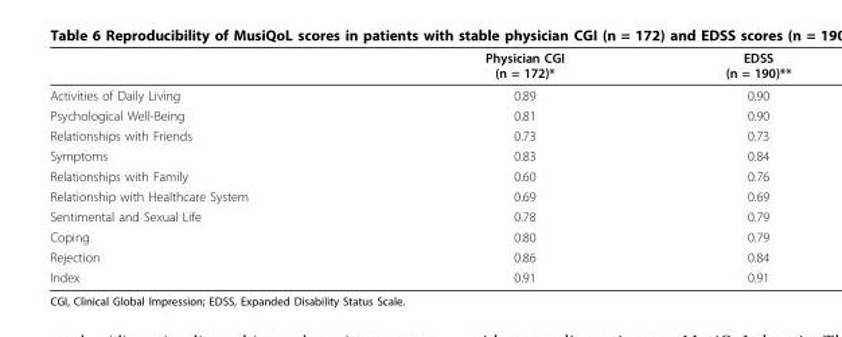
<table><thead><tr><td></td><td>Physician CGI (n = 172)*</td><td>EDSS (n = 190)**</td></tr></thead><tbody><tr><td>Activities of Daily Living</td><td>0.89</td><td>0.90</td></tr><tr><td>Psychological Well-Being</td><td>0.81</td><td>0.90</td></tr><tr><td>Relationships with Friends</td><td>0.73</td><td>0.73</td></tr><tr><td>Symptoms</td><td>0.83</td><td>0.84</td></tr><tr><td>Relationships with Family</td><td>0.60</td><td>0.76</td></tr><tr><td>Relationship with Healthcare System</td><td>0.69</td><td>0.69</td></tr><tr><td>Sentimental and Sexual Life</td><td>0.78</td><td>0.79</td></tr><tr><td>Coping</td><td>0.80</td><td>0.79</td></tr><tr><td>Rejection</td><td>0.86</td><td>0.84</td></tr><tr><td>Index</td><td>0.91</td><td>0.91</td></tr></tbody></table>